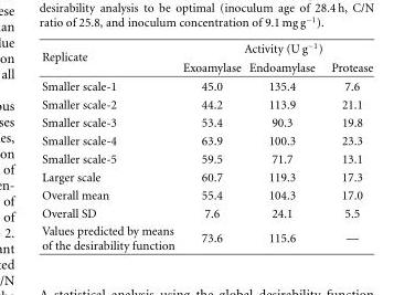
<table><thead><tr><td rowspan="2">Replicate</td><td colspan="3">Activity (U g<sup>−1</sup>)</td></tr><tr><td>Exoamylase</td><td>Endoamylase</td><td>Protease</td></tr></thead><tbody><tr><td>Smaller scale-1</td><td>45.0</td><td>135.4</td><td>7.6</td></tr><tr><td>Smaller scale-2</td><td>44.2</td><td>113.9</td><td>21.1</td></tr><tr><td>Smaller scale-3</td><td>53.4</td><td>90.3</td><td>19.8</td></tr><tr><td>Smaller scale-4</td><td>63.9</td><td>100.3</td><td>23.3</td></tr><tr><td>Smaller scale-5</td><td>59.5</td><td>71.7</td><td>13.1</td></tr><tr><td>Larger scale</td><td>60.7</td><td>119.3</td><td>17.3</td></tr><tr><td>Overall mean</td><td>55.4</td><td>104.3</td><td>17.0</td></tr><tr><td>Overall SD</td><td>7.6</td><td>24.1</td><td>5.5</td></tr><tr><td>Values predicted by means of the desirability function</td><td>73.6</td><td>115.6</td><td>—</td></tr></tbody></table>